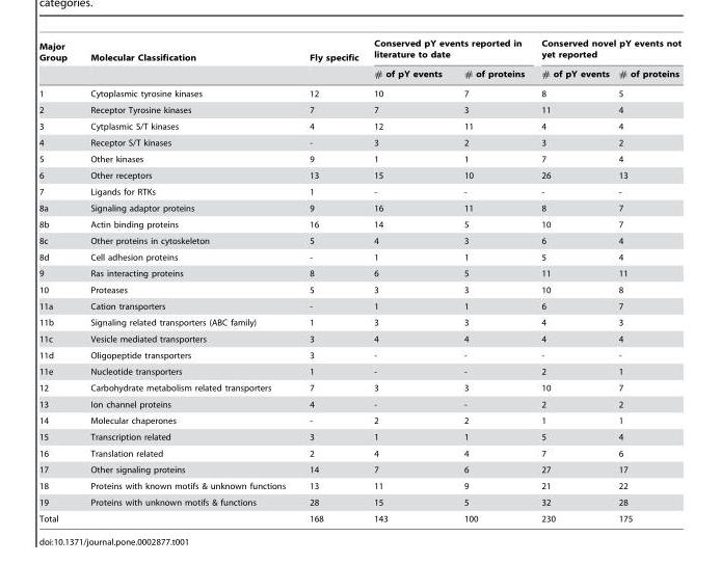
<table><thead><tr><td rowspan="2">Major Group</td><td rowspan="2">Molecular Classification</td><td rowspan="2">Fly specific</td><td colspan="2">Conserved pY events reported in literature to date</td><td colspan="2">Conserved novel pY events not yet reported</td></tr><tr><td># of pY events</td><td># of proteins</td><td># of pY events</td><td># of proteins</td></tr></thead><tbody><tr><td>1</td><td>Cytoplasmic tyrosine kinases</td><td>12</td><td>10</td><td>7</td><td>8</td><td>5</td></tr><tr><td>2</td><td>Receptor Tyrosine kinases</td><td>7</td><td>7</td><td>3</td><td>11</td><td>4</td></tr><tr><td>3</td><td>Cytplasmic S/T kinases</td><td>4</td><td>12</td><td>11</td><td>4</td><td>4</td></tr><tr><td>4</td><td>Receptor S/T kinases</td><td>-</td><td>3</td><td>2</td><td>3</td><td>2</td></tr><tr><td>5</td><td>Other kinases</td><td>9</td><td>1</td><td>1</td><td>7</td><td>4</td></tr><tr><td>6</td><td>Other receptors</td><td>13</td><td>15</td><td>10</td><td>26</td><td>13</td></tr><tr><td>7</td><td>Ligands for RTKs</td><td>1</td><td>-</td><td>-</td><td>-</td><td>-</td></tr><tr><td>8a</td><td>Signaling adaptor proteins</td><td>9</td><td>16</td><td>11</td><td>8</td><td>7</td></tr><tr><td>8b</td><td>Actin binding proteins</td><td>16</td><td>14</td><td>5</td><td>10</td><td>7</td></tr><tr><td>8c</td><td>Other proteins in cytoskeleton</td><td>5</td><td>4</td><td>3</td><td>6</td><td>4</td></tr><tr><td>8d</td><td>Cell adhesion proteins</td><td>-</td><td>1</td><td>1</td><td>5</td><td>4</td></tr><tr><td>9</td><td>Ras interacting proteins</td><td>8</td><td>6</td><td>5</td><td>11</td><td>11</td></tr><tr><td>10</td><td>Proteases</td><td>5</td><td>3</td><td>3</td><td>10</td><td>8</td></tr><tr><td>11a</td><td>Cation transporters</td><td>-</td><td>1</td><td>1</td><td>6</td><td>7</td></tr><tr><td>11b</td><td>Signaling related transporters (ABC family)</td><td>1</td><td>3</td><td>3</td><td>4</td><td>3</td></tr><tr><td>11c</td><td>Vesicle mediated transporters</td><td>3</td><td>4</td><td>4</td><td>4</td><td>4</td></tr><tr><td>11d</td><td>Oligopeptide transporters</td><td>3</td><td>-</td><td>-</td><td>-</td><td>-</td></tr><tr><td>11e</td><td>Nucleotide transporters</td><td>1</td><td>-</td><td>-</td><td>2</td><td>1</td></tr><tr><td>12</td><td>Carbohydrate metabolism related transporters</td><td>7</td><td>3</td><td>3</td><td>10</td><td>7</td></tr><tr><td>13</td><td>Ion channel proteins</td><td>4</td><td>-</td><td>-</td><td>2</td><td>2</td></tr><tr><td>14</td><td>Molecular chaperones</td><td>-</td><td>2</td><td>2</td><td>1</td><td>1</td></tr><tr><td>15</td><td>Transcription related</td><td>3</td><td>1</td><td>1</td><td>5</td><td>4</td></tr><tr><td>16</td><td>Translation related</td><td>2</td><td>4</td><td>4</td><td>7</td><td>6</td></tr><tr><td>17</td><td>Other signaling proteins</td><td>14</td><td>7</td><td>6</td><td>27</td><td>17</td></tr><tr><td>18</td><td>Proteins with known motifs &amp; unknown functions</td><td>13</td><td>11</td><td>9</td><td>21</td><td>22</td></tr><tr><td>19</td><td>Proteins with unknown motifs &amp; functions</td><td>28</td><td>15</td><td>5</td><td>32</td><td>28</td></tr><tr><td>Total</td><td></td><td>168</td><td>143</td><td>100</td><td>230</td><td>175</td></tr></tbody></table>